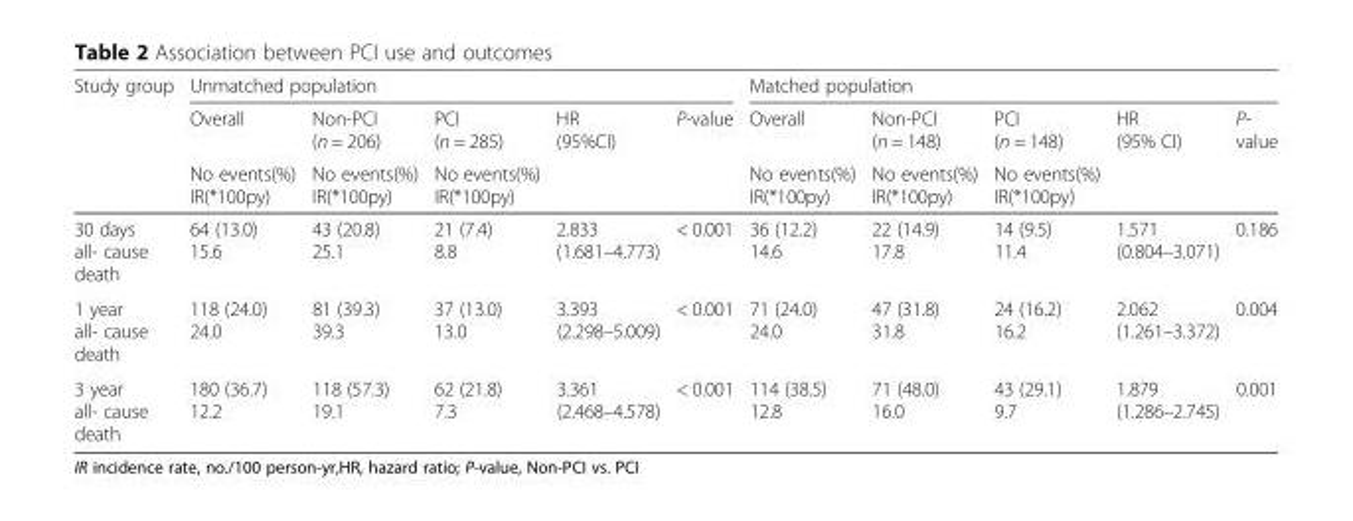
<table><thead><tr><td rowspan="3">Study group</td><td colspan="5">Unmatched population</td><td colspan="5">Matched population</td></tr><tr><td rowspan="2">Overall No events(%) IR(*100py)</td><td rowspan="2">Non-PCI (n = 206) No events(%) IR(*100py)</td><td rowspan="2">PCI (n = 285) No events(%) IR(*100py)</td><td rowspan="2">HR (95%CI)</td><td rowspan="2">P-value</td><td rowspan="2">Overall No events(%) IR(*100py)</td><td rowspan="2">Non-PCI (n = 148) No events(%) IR(*100py)</td><td rowspan="2">PCI (n = 148) No events(%) IR(*100py)</td><td rowspan="2">HR (95% CI)</td><td rowspan="2">P- value</td></tr><tr></tr></thead><tbody><tr><td>30 days all- cause death</td><td>64 (13.0) 15.6</td><td>43 (20.8) 25.1</td><td>21 (7.4) 8.8</td><td>2.833 (1.681–4.773)</td><td>&lt; 0.001</td><td>36 (12.2) 14.6</td><td>22 (14.9) 17.8</td><td>14 (9.5) 11.4</td><td>1.571 (0.804–3.071)</td><td>0.186</td></tr><tr><td>1 year all- cause death</td><td>118 (24.0) 24.0</td><td>81 (39.3) 39.3</td><td>37 (13.0) 13.0</td><td>3.393 (2.298–5.009)</td><td>&lt; 0.001</td><td>71 (24.0) 24.0</td><td>47 (31.8) 31.8</td><td>24 (16.2) 16.2</td><td>2.062 (1.261–3.372)</td><td>0.004</td></tr><tr><td>3 year all- cause death</td><td>180 (36.7) 12.2</td><td>118 (57.3) 19.1</td><td>62 (21.8) 7.3</td><td>3.361 (2.468–4.578)</td><td>&lt; 0.001</td><td>114 (38.5) 12.8</td><td>71 (48.0) 16.0</td><td>43 (29.1) 9.7</td><td>1.879 (1.286–2.745)</td><td>0.001</td></tr></tbody></table>